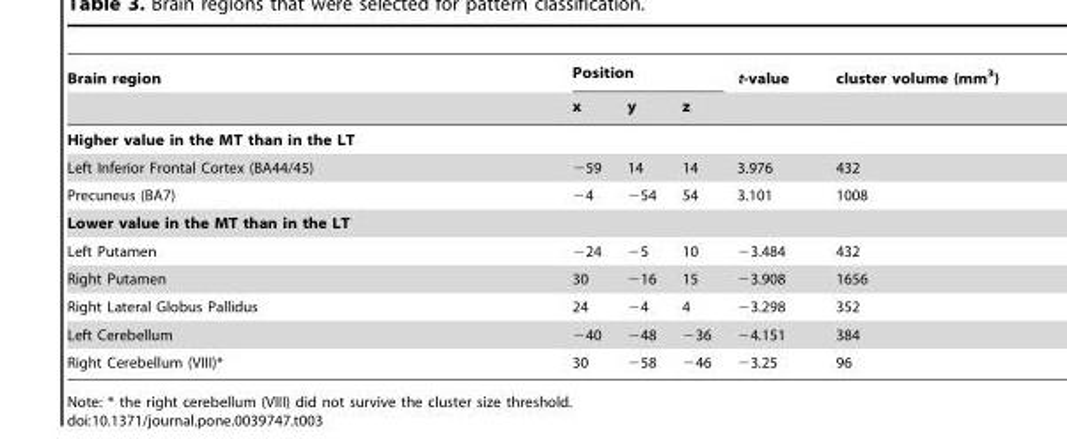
<table><thead><tr><td rowspan="2">Brain region</td><td colspan="3">Position</td><td rowspan="2">t-value</td><td rowspan="2">cluster volume (mm<sup>3</sup>)</td></tr><tr><td>x</td><td>y</td><td>z</td></tr></thead><tbody><tr><td colspan="6">Higher value in the MT than in the LT</td></tr><tr><td>Left Inferior Frontal Cortex (BA44/45)</td><td>−59</td><td>14</td><td>14</td><td>3.976</td><td>432</td></tr><tr><td>Precuneus (BA7)</td><td>−4</td><td>−54</td><td>54</td><td>3.101</td><td>1008</td></tr><tr><td colspan="6">Lower value in the MT than in the LT</td></tr><tr><td>Left Putamen</td><td>−24</td><td>−5</td><td>10</td><td>−3.484</td><td>432</td></tr><tr><td>Right Putamen</td><td>30</td><td>−16</td><td>15</td><td>−3.908</td><td>1656</td></tr><tr><td>Right Lateral Globus Pallidus</td><td>24</td><td>−4</td><td>4</td><td>−3.298</td><td>352</td></tr><tr><td>Left Cerebellum</td><td>−40</td><td>−48</td><td>−36</td><td>−4.151</td><td>384</td></tr><tr><td>Right Cerebellum (VIII)*</td><td>30</td><td>−58</td><td>−46</td><td>−3.25</td><td>96</td></tr></tbody></table>